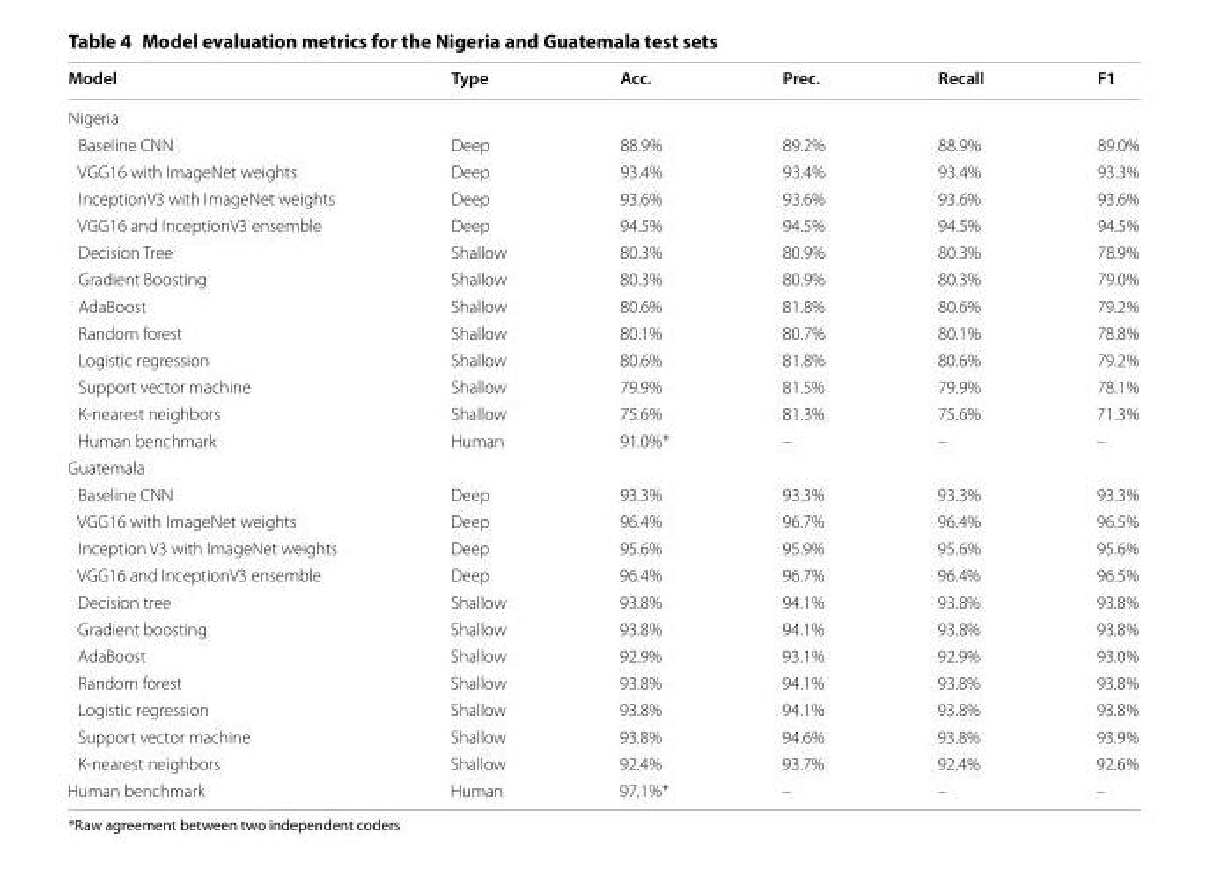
<table><thead><tr><td>Model</td><td>Type</td><td>Acc.</td><td>Prec.</td><td>Recall</td><td>F1</td></tr></thead><tbody><tr><td colspan="6">Nigeria</td></tr><tr><td>Baseline CNN</td><td>Deep</td><td>88.9%</td><td>89.2%</td><td>88.9%</td><td>89.0%</td></tr><tr><td>VGG16 with ImageNet weights</td><td>Deep</td><td>93.4%</td><td>93.4%</td><td>93.4%</td><td>93.3%</td></tr><tr><td>InceptionV3 with ImageNet weights</td><td>Deep</td><td>93.6%</td><td>93.6%</td><td>93.6%</td><td>93.6%</td></tr><tr><td>VGG16 and InceptionV3 ensemble</td><td>Deep</td><td>94.5%</td><td>94.5%</td><td>94.5%</td><td>94.5%</td></tr><tr><td>Decision Tree</td><td>Shallow</td><td>80.3%</td><td>80.9%</td><td>80.3%</td><td>78.9%</td></tr><tr><td>Gradient Boosting</td><td>Shallow</td><td>80.3%</td><td>80.9%</td><td>80.3%</td><td>79.0%</td></tr><tr><td>AdaBoost</td><td>Shallow</td><td>80.6%</td><td>81.8%</td><td>80.6%</td><td>79.2%</td></tr><tr><td>Random forest</td><td>Shallow</td><td>80.1%</td><td>80.7%</td><td>80.1%</td><td>78.8%</td></tr><tr><td>Logistic regression</td><td>Shallow</td><td>80.6%</td><td>81.8%</td><td>80.6%</td><td>79.2%</td></tr><tr><td>Support vector machine</td><td>Shallow</td><td>79.9%</td><td>81.5%</td><td>79.9%</td><td>78.1%</td></tr><tr><td>K-nearest neighbors</td><td>Shallow</td><td>75.6%</td><td>81.3%</td><td>75.6%</td><td>71.3%</td></tr><tr><td>Human benchmark</td><td>Human</td><td>91.0%*</td><td>–</td><td>–</td><td>–</td></tr><tr><td colspan="6">Guatemala</td></tr><tr><td>Baseline CNN</td><td>Deep</td><td>93.3%</td><td>93.3%</td><td>93.3%</td><td>93.3%</td></tr><tr><td>VGG16 with ImageNet weights</td><td>Deep</td><td>96.4%</td><td>96.7%</td><td>96.4%</td><td>96.5%</td></tr><tr><td>Inception V3 with ImageNet weights</td><td>Deep</td><td>95.6%</td><td>95.9%</td><td>95.6%</td><td>95.6%</td></tr><tr><td>VGG16 and InceptionV3 ensemble</td><td>Deep</td><td>96.4%</td><td>96.7%</td><td>96.4%</td><td>96.5%</td></tr><tr><td>Decision tree</td><td>Shallow</td><td>93.8%</td><td>94.1%</td><td>93.8%</td><td>93.8%</td></tr><tr><td>Gradient boosting</td><td>Shallow</td><td>93.8%</td><td>94.1%</td><td>93.8%</td><td>93.8%</td></tr><tr><td>AdaBoost</td><td>Shallow</td><td>92.9%</td><td>93.1%</td><td>92.9%</td><td>93.0%</td></tr><tr><td>Random forest</td><td>Shallow</td><td>93.8%</td><td>94.1%</td><td>93.8%</td><td>93.8%</td></tr><tr><td>Logistic regression</td><td>Shallow</td><td>93.8%</td><td>94.1%</td><td>93.8%</td><td>93.8%</td></tr><tr><td>Support vector machine</td><td>Shallow</td><td>93.8%</td><td>94.6%</td><td>93.8%</td><td>93.9%</td></tr><tr><td>K-nearest neighbors</td><td>Shallow</td><td>92.4%</td><td>93.7%</td><td>92.4%</td><td>92.6%</td></tr><tr><td>Human benchmark</td><td>Human</td><td>97.1%*</td><td>–</td><td>–</td><td>–</td></tr></tbody></table>